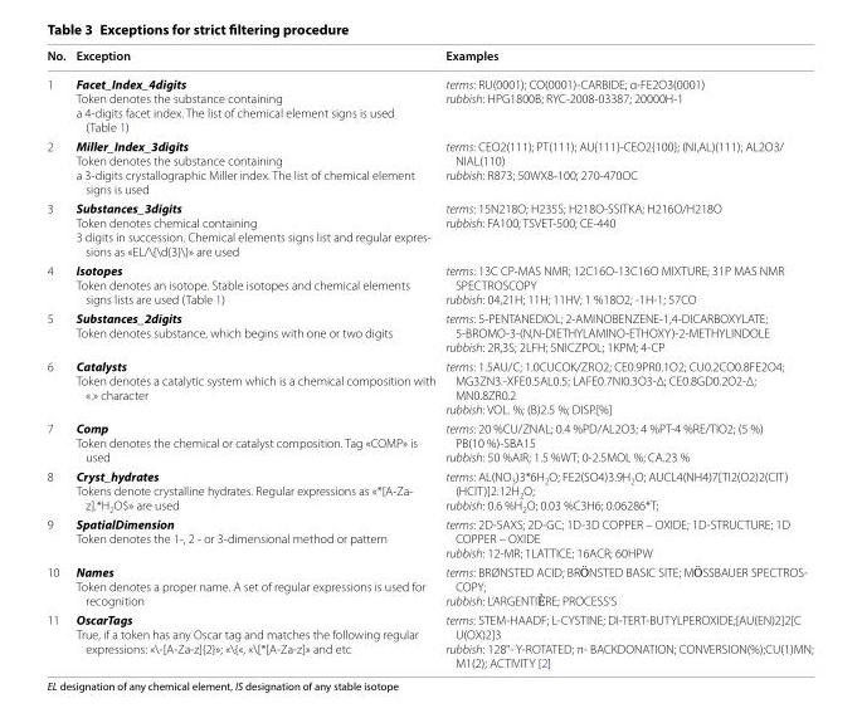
<table><thead><tr><td>No.</td><td>Exception</td><td>Examples</td></tr></thead><tbody><tr><td>1</td><td>Facet_Index_4digits Token denotes the substance containing a 4-digits facet index. The list of chemical element signs is used (Table 1)</td><td>terms: RU(0001); CO(0001)-CARBIDE; α-FE2O3(0001) rubbish: HPG1800B; RYC-2008-03387; 20000H-1</td></tr><tr><td>2</td><td>Miller_Index_3digits Token denotes the substance containing a 3-digits crystallographic Miller index. The list of chemical element signs is used</td><td>terms: CEO2(111); PT(111); AU{111}-CEO2{100}; (NI,AL)(111); AL2O3/ NIAL(110) rubbish: R873; 50WX8-100; 270-470OC</td></tr><tr><td>3</td><td>Substances_3digits Token denotes chemical containing 3 digits in succession. Chemical elements signs list and regular expres- sions as «EL/\{\d{3}\}» are used</td><td>terms: 15N218O; H235S; H218O-SSITKA; H216O/H218O rubbish: FA100; TSVET-500; CE-440</td></tr><tr><td>4</td><td>Isotopes Token denotes an isotope. Stable isotopes and chemical elements signs lists are used (Table 1)</td><td>terms: 13C CP-MAS NMR; 12C16O-13C16O MIXTURE; 31P MAS NMR SPECTROSCOPY rubbish: 04,21H; 11H; 11HV; 1 %18O2; -1H-1; 57CO</td></tr><tr><td>5</td><td>Substances_2digits Token denotes substance, which begins with one or two digits</td><td>terms: 5-PENTANEDIOL; 2-AMINOBENZENE-1,4-DICARBOXYLATE; 5-BROMO-3-(N,N-DIETHYLAMINO-ETHOXY)-2-METHYLINDOLE rubbish: 2R,3S; 2LFH; 5NICZPOL; 1KPM; 4-CP</td></tr><tr><td>6</td><td>Catalysts Token denotes a catalytic system which is a chemical composition with «.» character</td><td>terms: 1.5AU/C; 1.0CUCOK/ZRO2; CE0.9PR0.1O2; CU0.2CO0.8FE2O4; MG3ZN3.-XFE0.5AL0.5; LAFE0.7NI0.3O3-Δ; CE0.8GD0.2O2-Δ; MN0.8ZR0.2 rubbish: VOL. %; (B)2.5 %; DISP.[%]</td></tr><tr><td>7</td><td>Comp Token denotes the chemical or catalyst composition. Tag «COMP» is used</td><td>terms: 20 %CU/ZNAL; 0.4 %PD/AL2O3; 4 %PT-4 %RE/TIO2; (5 %) PB(10 %)-SBA15 rubbish: 50 %AIR; 1.5 %WT; 0-2.5MOL %; CA.23 %</td></tr><tr><td>8</td><td>Cryst_hydrates Tokens denote crystalline hydrates. Regular expressions as «*[A-Za- z].*H<sub>2</sub>O$» are used</td><td>terms: AL(NO<sub>3</sub>)3*6H<sub>2</sub>O; FE2(SO4)3.9H<sub>2</sub>O; AUCL4(NH4)7[TI2(O2)2(CIT) (HCIT)]2.12H<sub>2</sub>O; rubbish: 0.6 %H<sub>2</sub>O; 0.03 %C3H6; 0.06286*T;</td></tr><tr><td>9</td><td>SpatialDimension Token denotes the 1-, 2 - or 3-dimensional method or pattern</td><td>terms: 2D-SAXS; 2D-GC; 1D-3D COPPER – OXIDE; 1D-STRUCTURE; 1D COPPER – OXIDE rubbish: 12-MR; 1LATTICE; 16ACR; 60HPW</td></tr><tr><td>10</td><td>Names Token denotes a proper name. A set of regular expressions is used for recognition</td><td>terms: BRØNSTED ACID; BRӦNSTED BASIC SITE; MӦSSBAUER SPECTROS- COPY; rubbish: L’ARGENTIЀRE; PROCESS’S</td></tr><tr><td>11</td><td>OscarTags True, if a token has any Oscar tag and matches the following regular expressions: «\-[A-Za-z]{2}»; «\{«, «\[*[A-Za-z]» and etc</td><td>terms: STEM-HAADF; L-CYSTINE; DI-TERT-BUTYLPEROXIDE;[AU(EN)2]2[C U(OX)2]3 rubbish: 128°- Y-ROTATED; π- BACKDONATION; CONVERSION(%);CU(1)MN; M1(2); ACTIVITY [2]</td></tr></tbody></table>